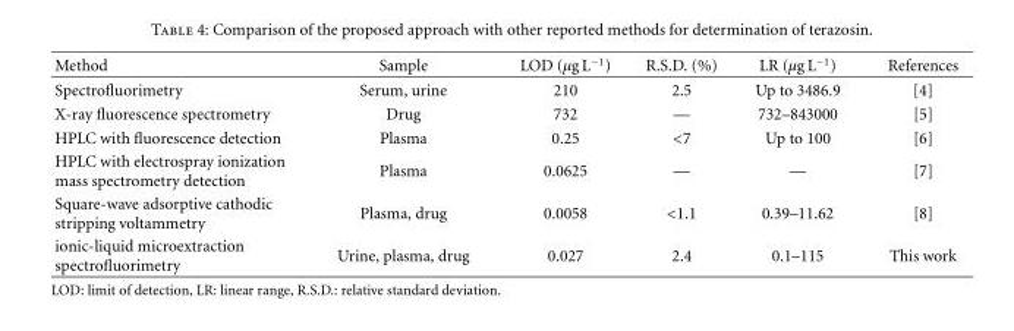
<table><thead><tr><td>Method</td><td>Sample</td><td>LOD (μg L<sup>−1</sup>)</td><td>R.S.D. (%)</td><td>LR (μg L<sup>−1</sup>)</td><td>References</td></tr></thead><tbody><tr><td>Spectrofluorimetry</td><td>Serum, urine</td><td>210</td><td>2.5</td><td>Up to 3486.9</td><td>[4]</td></tr><tr><td>X-ray fluorescence spectrometry</td><td>Drug</td><td>732</td><td>—</td><td>732–843000</td><td>[5]</td></tr><tr><td>HPLC with fluorescence detection</td><td>Plasma</td><td>0.25</td><td>&lt;7</td><td>Up to 100</td><td>[6]</td></tr><tr><td>HPLC with electrospray ionization mass spectrometry detection</td><td>Plasma</td><td>0.0625</td><td>—</td><td>—</td><td>[7]</td></tr><tr><td>Square-wave adsorptive cathodic stripping voltammetry</td><td>Plasma, drug</td><td>0.0058</td><td>&lt;1.1</td><td>0.39–11.62</td><td>[8]</td></tr><tr><td>ionic-liquid microextraction spectrofluorimetry</td><td>Urine, plasma, drug</td><td>0.027</td><td>2.4</td><td>0.1–115</td><td>This work</td></tr></tbody></table>